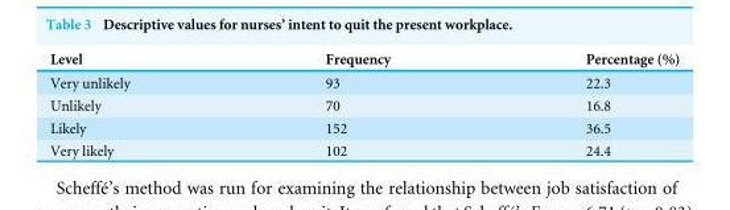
<table><thead><tr><td>Level</td><td>Frequency</td><td>Percentage (%)</td></tr></thead><tbody><tr><td>Very unlikely</td><td>93</td><td>22.3</td></tr><tr><td>Unlikely</td><td>70</td><td>16.8</td></tr><tr><td>Likely</td><td>152</td><td>36.5</td></tr><tr><td>Very likely</td><td>102</td><td>24.4</td></tr></tbody></table>